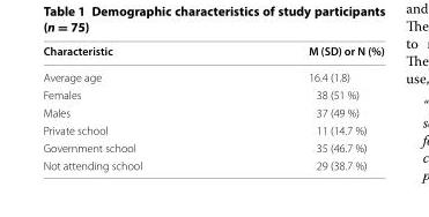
<table><thead><tr><td>Characteristic</td><td>M (SD) or N (%)</td></tr></thead><tbody><tr><td>Average age</td><td>16.4 (1.8)</td></tr><tr><td>Females</td><td>38 (51 %)</td></tr><tr><td>Males</td><td>37 (49 %)</td></tr><tr><td>Private school</td><td>11 (14.7 %)</td></tr><tr><td>Government school</td><td>35 (46.7 %)</td></tr><tr><td>Not attending school</td><td>29 (38.7 %)</td></tr></tbody></table>